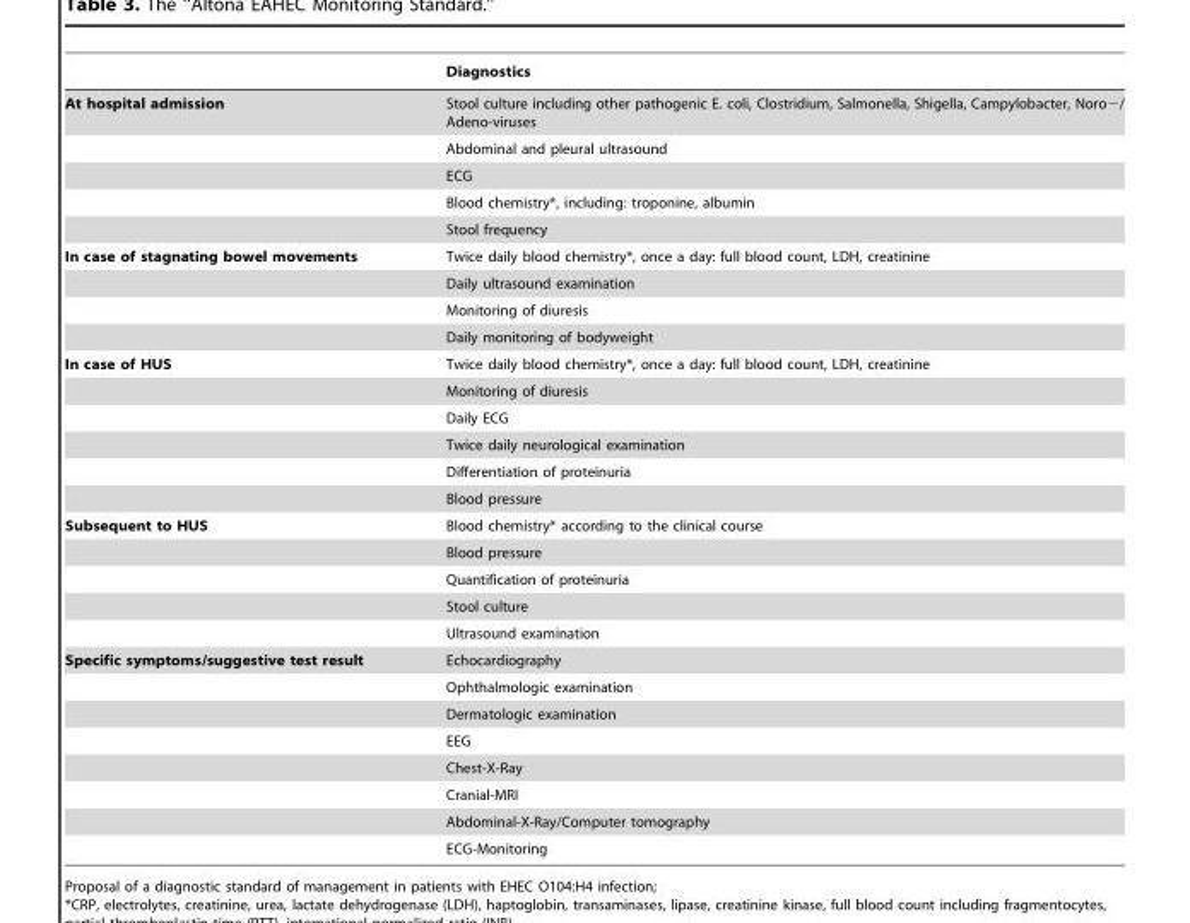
<table><thead><tr><td></td><td>Diagnostics</td></tr></thead><tbody><tr><td rowspan="5">At hospital admission</td><td>Stool culture including other pathogenic E. coli, Clostridium, Salmonella, Shigella, Campylobacter, Noro−/ Adeno-viruses</td></tr><tr><td>Abdominal and pleural ultrasound</td></tr><tr><td>ECG</td></tr><tr><td>Blood chemistry*, including: troponine, albumin</td></tr><tr><td>Stool frequency</td></tr><tr><td rowspan="4">In case of stagnating bowel movements</td><td>Twice daily blood chemistry*, once a day: full blood count, LDH, creatinine</td></tr><tr><td>Daily ultrasound examination</td></tr><tr><td>Monitoring of diuresis</td></tr><tr><td>Daily monitoring of bodyweight</td></tr><tr><td rowspan="6">In case of HUS</td><td>Twice daily blood chemistry*, once a day: full blood count, LDH, creatinine</td></tr><tr><td>Monitoring of diuresis</td></tr><tr><td>Daily ECG</td></tr><tr><td>Twice daily neurological examination</td></tr><tr><td>Differentiation of proteinuria</td></tr><tr><td>Blood pressure</td></tr><tr><td rowspan="5">Subsequent to HUS</td><td>Blood chemistry* according to the clinical course</td></tr><tr><td>Blood pressure</td></tr><tr><td>Quantification of proteinuria</td></tr><tr><td>Stool culture</td></tr><tr><td>Ultrasound examination</td></tr><tr><td rowspan="8">Specific symptoms/suggestive test result</td><td>Echocardiography</td></tr><tr><td>Ophthalmologic examination</td></tr><tr><td>Dermatologic examination</td></tr><tr><td>EEG</td></tr><tr><td>Chest-X-Ray</td></tr><tr><td>Cranial-MRI</td></tr><tr><td>Abdominal-X-Ray/Computer tomography</td></tr><tr><td>ECG-Monitoring</td></tr></tbody></table>